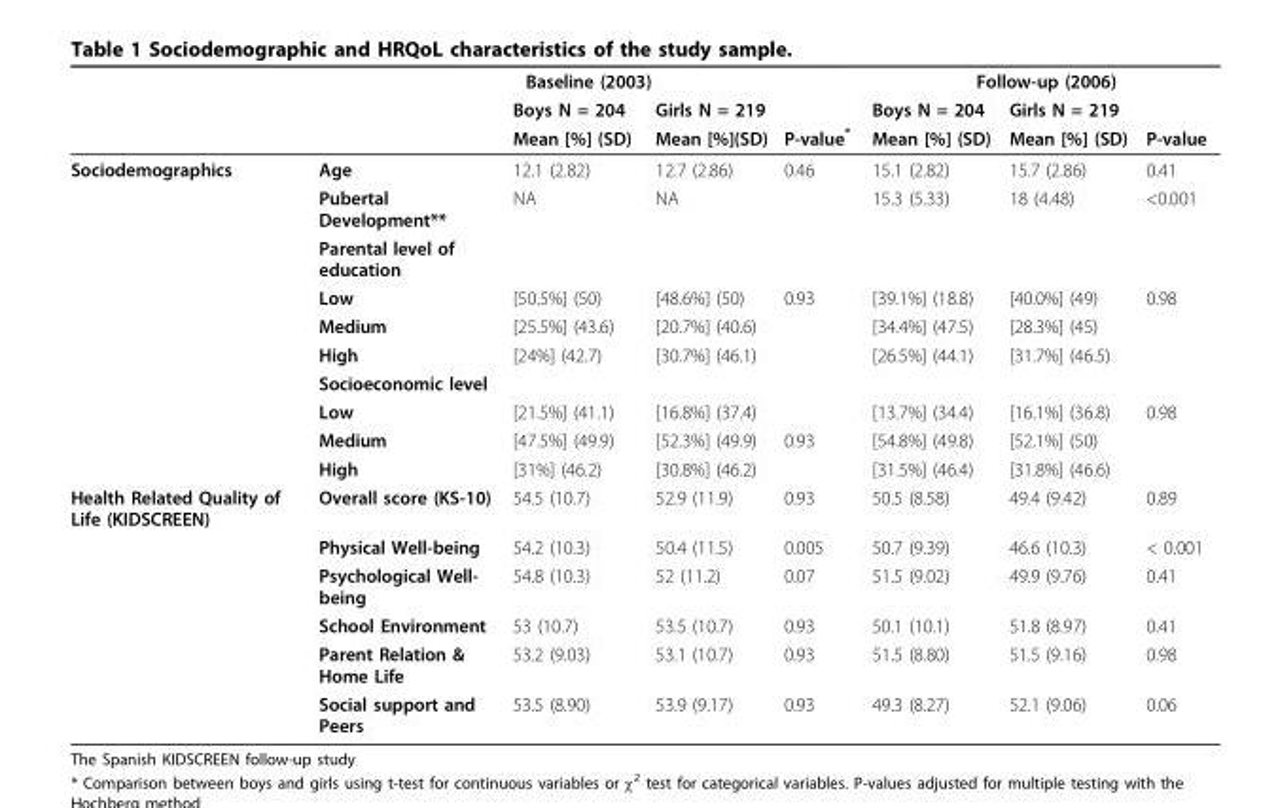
<table><thead><tr><td rowspan="3"></td><td colspan="4">Baseline (2003)</td><td colspan="3">Follow-up (2006)</td></tr><tr><td rowspan="2"></td><td rowspan="2">Boys N = 204 Mean [%] (SD)</td><td rowspan="2">Girls N = 219 Mean [%](SD)</td><td rowspan="2">P-value*</td><td rowspan="2">Boys N = 204 Mean [%] (SD)</td><td rowspan="2">Girls N = 219 Mean [%] (SD)</td><td rowspan="2">P-value</td></tr><tr></tr></thead><tbody><tr><td rowspan="10">Sociodemographics</td><td>Age</td><td>12.1 (2.82)</td><td>12.7 (2.86)</td><td>0.46</td><td>15.1 (2.82)</td><td>15.7 (2.86)</td><td>0.41</td></tr><tr><td>Pubertal Development**</td><td>NA</td><td>NA</td><td></td><td>15.3 (5.33)</td><td>18 (4.48)</td><td>&lt;0.001</td></tr><tr><td>Parental level of education</td><td></td><td></td><td></td><td></td><td></td><td></td></tr><tr><td>Low</td><td>[50.5%] (50)</td><td>[48.6%] (50)</td><td>0.93</td><td>[39.1%] (18.8)</td><td>[40.0%] (49)</td><td>0.98</td></tr><tr><td>Medium</td><td>[25.5%] (43.6)</td><td>[20.7%] (40.6)</td><td></td><td>[34.4%] (47.5)</td><td>[28.3%] (45)</td><td></td></tr><tr><td>High</td><td>[24%] (42.7)</td><td>[30.7%] (46.1)</td><td></td><td>[26.5%] (44.1)</td><td>[31.7%] (46.5)</td><td></td></tr><tr><td>Socioeconomic level</td><td></td><td></td><td></td><td></td><td></td><td></td></tr><tr><td>Low</td><td>[21.5%] (41.1)</td><td>[16.8%] (37.4)</td><td></td><td>[13.7%] (34.4)</td><td>[16.1%] (36.8)</td><td>0.98</td></tr><tr><td>Medium</td><td>[47.5%] (49.9)</td><td>[52.3%] (49.9)</td><td>0.93</td><td>[54.8%] (49.8)</td><td>[52.1%] (50)</td><td></td></tr><tr><td>High</td><td>[31%] (46.2)</td><td>[30.8%] (46.2)</td><td></td><td>[31.5%] (46.4)</td><td>[31.8%] (46.6)</td><td></td></tr><tr><td rowspan="6">Health Related Quality of Life (KIDSCREEN)</td><td>Overall score (KS-10)</td><td>54.5 (10.7)</td><td>52.9 (11.9)</td><td>0.93</td><td>50.5 (8.58)</td><td>49.4 (9.42)</td><td>0.89</td></tr><tr><td>Physical Well-being</td><td>54.2 (10.3)</td><td>50.4 (11.5)</td><td>0.005</td><td>50.7 (9.39)</td><td>46.6 (10.3)</td><td>&lt; 0.001</td></tr><tr><td>Psychological Well- being</td><td>54.8 (10.3)</td><td>52 (11.2)</td><td>0.07</td><td>51.5 (9.02)</td><td>49.9 (9.76)</td><td>0.41</td></tr><tr><td>School Environment</td><td>53 (10.7)</td><td>53.5 (10.7)</td><td>0.93</td><td>50.1 (10.1)</td><td>51.8 (8.97)</td><td>0.41</td></tr><tr><td>Parent Relation &amp; Home Life</td><td>53.2 (9.03)</td><td>53.1 (10.7)</td><td>0.93</td><td>51.5 (8.80)</td><td>51.5 (9.16)</td><td>0.98</td></tr><tr><td>Social support and Peers</td><td>53.5 (8.90)</td><td>53.9 (9.17)</td><td>0.93</td><td>49.3 (8.27)</td><td>52.1 (9.06)</td><td>0.06</td></tr></tbody></table>